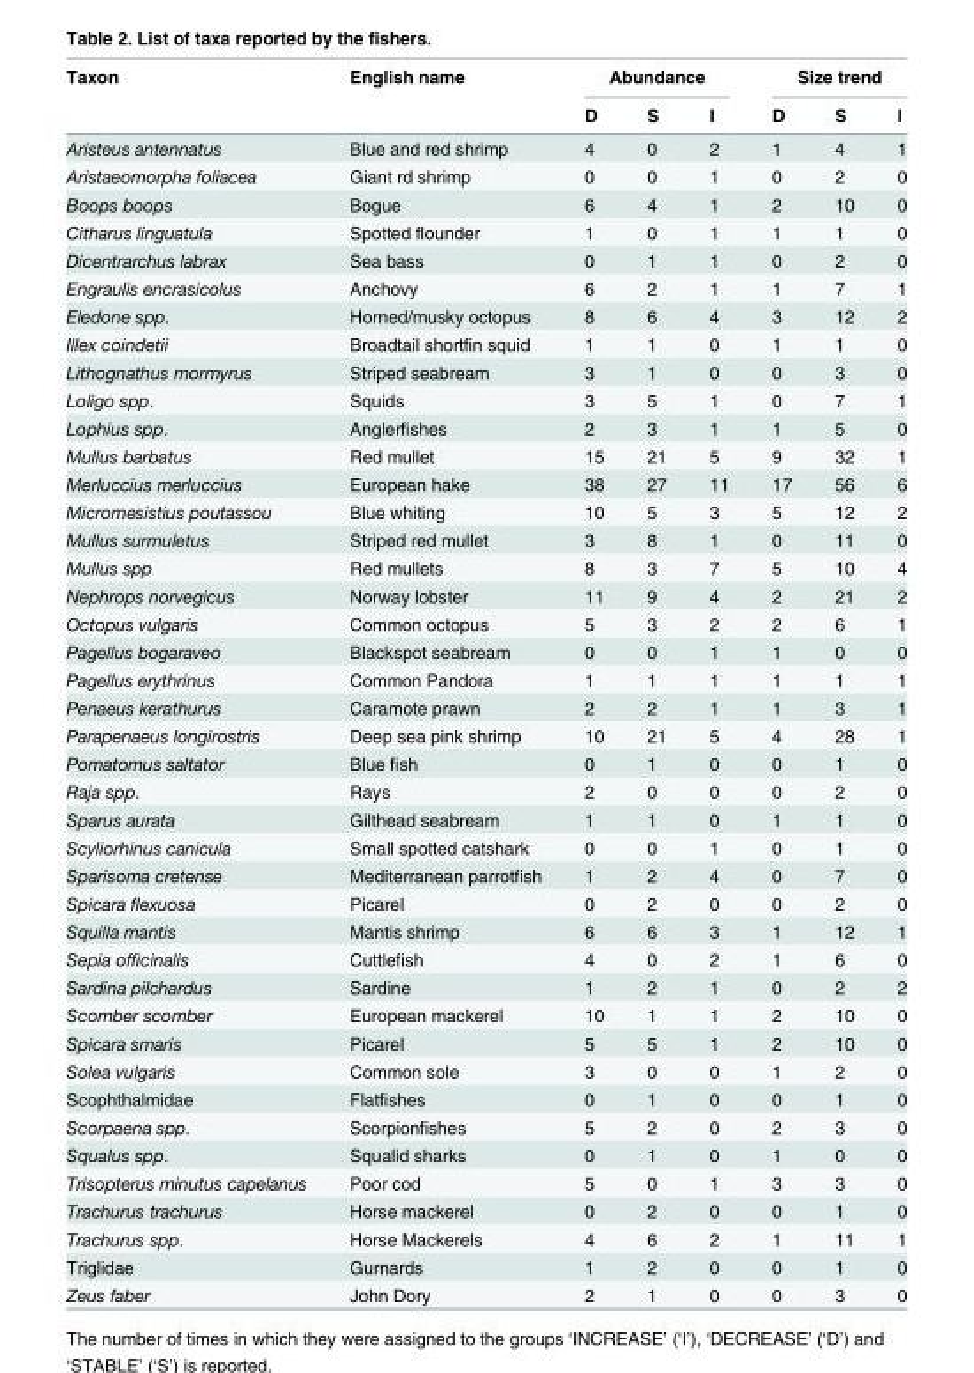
<table><thead><tr><td rowspan="2">Taxon</td><td rowspan="2">English name</td><td colspan="3">Abundance</td><td colspan="3">Size trend</td></tr><tr><td>D</td><td>S</td><td>I</td><td>D</td><td>S</td><td>I</td></tr></thead><tbody><tr><td>Aristeus antennatus</td><td>Blue and red shrimp</td><td>4</td><td>0</td><td>2</td><td>1</td><td>4</td><td>1</td></tr><tr><td>Aristaeomorpha foliacea</td><td>Giant rd shrimp</td><td>0</td><td>0</td><td>1</td><td>0</td><td>2</td><td>0</td></tr><tr><td>Boops boops</td><td>Bogue</td><td>6</td><td>4</td><td>1</td><td>2</td><td>10</td><td>0</td></tr><tr><td>Citharus linguatula</td><td>Spotted flounder</td><td>1</td><td>0</td><td>1</td><td>1</td><td>1</td><td>0</td></tr><tr><td>Dicentrarchus labrax</td><td>Sea bass</td><td>0</td><td>1</td><td>1</td><td>0</td><td>2</td><td>0</td></tr><tr><td>Engraulis encrasicolus</td><td>Anchovy</td><td>6</td><td>2</td><td>1</td><td>1</td><td>7</td><td>1</td></tr><tr><td>Eledone spp.</td><td>Horned/musky octopus</td><td>8</td><td>6</td><td>4</td><td>3</td><td>12</td><td>2</td></tr><tr><td>Illex coindetii</td><td>Broadtail shortfin squid</td><td>1</td><td>1</td><td>0</td><td>1</td><td>1</td><td>0</td></tr><tr><td>Lithognathus mormyrus</td><td>Striped seabream</td><td>3</td><td>1</td><td>0</td><td>0</td><td>3</td><td>0</td></tr><tr><td>Loligo spp.</td><td>Squids</td><td>3</td><td>5</td><td>1</td><td>0</td><td>7</td><td>1</td></tr><tr><td>Lophius spp.</td><td>Anglerfishes</td><td>2</td><td>3</td><td>1</td><td>1</td><td>5</td><td>0</td></tr><tr><td>Mullus barbatus</td><td>Red mullet</td><td>15</td><td>21</td><td>5</td><td>9</td><td>32</td><td>1</td></tr><tr><td>Merluccius merluccius</td><td>European hake</td><td>38</td><td>27</td><td>11</td><td>17</td><td>56</td><td>6</td></tr><tr><td>Micromesistius poutassou</td><td>Blue whiting</td><td>10</td><td>5</td><td>3</td><td>5</td><td>12</td><td>2</td></tr><tr><td>Mullus surmuletus</td><td>Striped red mullet</td><td>3</td><td>8</td><td>1</td><td>0</td><td>11</td><td>0</td></tr><tr><td>Mullus spp</td><td>Red mullets</td><td>8</td><td>3</td><td>7</td><td>5</td><td>10</td><td>4</td></tr><tr><td>Nephrops norvegicus</td><td>Norway lobster</td><td>11</td><td>9</td><td>4</td><td>2</td><td>21</td><td>2</td></tr><tr><td>Octopus vulgaris</td><td>Common octopus</td><td>5</td><td>3</td><td>2</td><td>2</td><td>6</td><td>1</td></tr><tr><td>Pagellus bogaraveo</td><td>Blackspot seabream</td><td>0</td><td>0</td><td>1</td><td>1</td><td>0</td><td>0</td></tr><tr><td>Pagellus erythrinus</td><td>Common Pandora</td><td>1</td><td>1</td><td>1</td><td>1</td><td>1</td><td>1</td></tr><tr><td>Penaeus kerathurus</td><td>Caramote prawn</td><td>2</td><td>2</td><td>1</td><td>1</td><td>3</td><td>1</td></tr><tr><td>Parapenaeus longirostris</td><td>Deep sea pink shrimp</td><td>10</td><td>21</td><td>5</td><td>4</td><td>28</td><td>1</td></tr><tr><td>Pomatomus saltator</td><td>Blue fish</td><td>0</td><td>1</td><td>0</td><td>0</td><td>1</td><td>0</td></tr><tr><td>Raja spp.</td><td>Rays</td><td>2</td><td>0</td><td>0</td><td>0</td><td>2</td><td>0</td></tr><tr><td>Sparus aurata</td><td>Gilthead seabream</td><td>1</td><td>1</td><td>0</td><td>1</td><td>1</td><td>0</td></tr><tr><td>Scyliorhinus canicula</td><td>Small spotted catshark</td><td>0</td><td>0</td><td>1</td><td>0</td><td>1</td><td>0</td></tr><tr><td>Sparisoma cretense</td><td>Mediterranean parrotfish</td><td>1</td><td>2</td><td>4</td><td>0</td><td>7</td><td>0</td></tr><tr><td>Spicara flexuosa</td><td>Picarel</td><td>0</td><td>2</td><td>0</td><td>0</td><td>2</td><td>0</td></tr><tr><td>Squilla mantis</td><td>Mantis shrimp</td><td>6</td><td>6</td><td>3</td><td>1</td><td>12</td><td>1</td></tr><tr><td>Sepia officinalis</td><td>Cuttlefish</td><td>4</td><td>0</td><td>2</td><td>1</td><td>6</td><td>0</td></tr><tr><td>Sardina pilchardus</td><td>Sardine</td><td>1</td><td>2</td><td>1</td><td>0</td><td>2</td><td>2</td></tr><tr><td>Scomber scomber</td><td>European mackerel</td><td>10</td><td>1</td><td>1</td><td>2</td><td>10</td><td>0</td></tr><tr><td>Spicara smaris</td><td>Picarel</td><td>5</td><td>5</td><td>1</td><td>2</td><td>10</td><td>0</td></tr><tr><td>Solea vulgaris</td><td>Common sole</td><td>3</td><td>0</td><td>0</td><td>1</td><td>2</td><td>0</td></tr><tr><td>Scophthalmidae</td><td>Flatfishes</td><td>0</td><td>1</td><td>0</td><td>0</td><td>1</td><td>0</td></tr><tr><td>Scorpaena spp.</td><td>Scorpionfishes</td><td>5</td><td>2</td><td>0</td><td>2</td><td>3</td><td>0</td></tr><tr><td>Squalus spp.</td><td>Squalid sharks</td><td>0</td><td>1</td><td>0</td><td>1</td><td>0</td><td>0</td></tr><tr><td>Trisopterus minutus capelanus</td><td>Poor cod</td><td>5</td><td>0</td><td>1</td><td>3</td><td>3</td><td>0</td></tr><tr><td>Trachurus trachurus</td><td>Horse mackerel</td><td>0</td><td>2</td><td>0</td><td>0</td><td>1</td><td>0</td></tr><tr><td>Trachurus spp.</td><td>Horse Mackerels</td><td>4</td><td>6</td><td>2</td><td>1</td><td>11</td><td>1</td></tr><tr><td>Triglidae</td><td>Gurnards</td><td>1</td><td>2</td><td>0</td><td>0</td><td>1</td><td>0</td></tr><tr><td>Zeus faber</td><td>John Dory</td><td>2</td><td>1</td><td>0</td><td>0</td><td>3</td><td>0</td></tr></tbody></table>